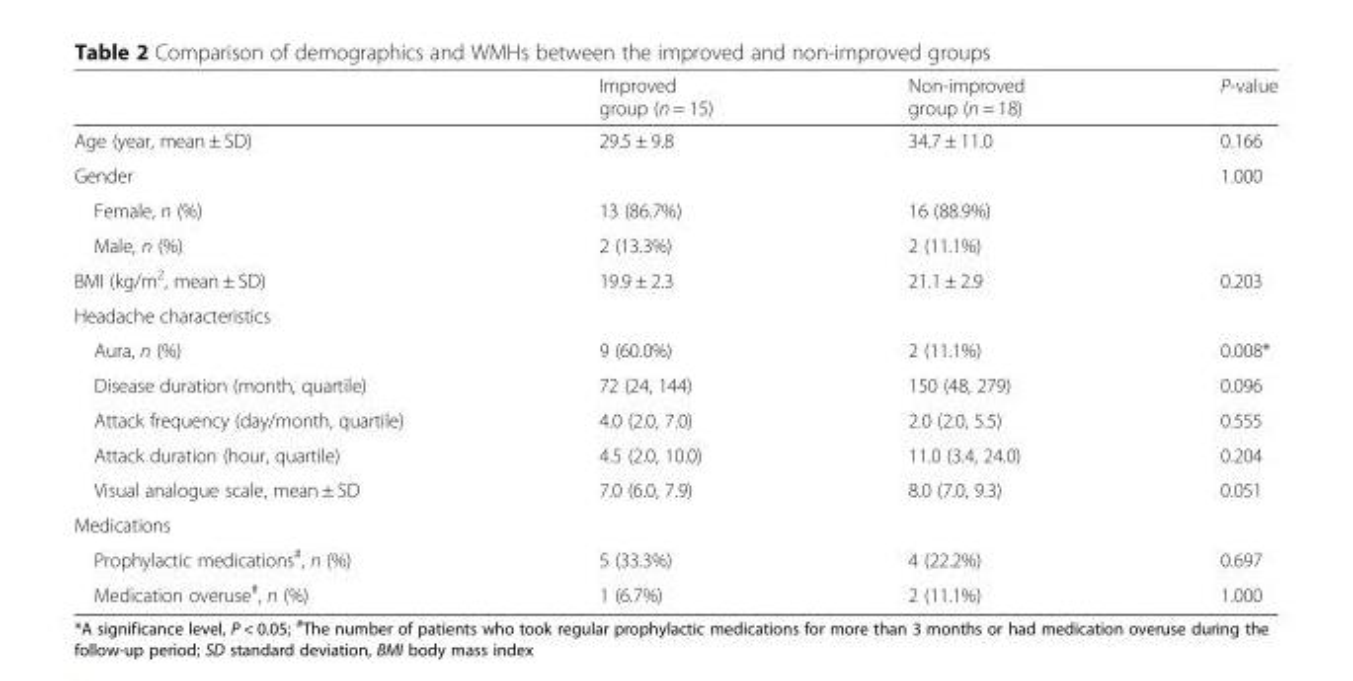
<table><thead><tr><td></td><td>Improved group (n = 15)</td><td>Non-improved group (n = 18)</td><td>P-value</td></tr></thead><tbody><tr><td>Age (year, mean ± SD)</td><td>29.5 ± 9.8</td><td>34.7 ± 11.0</td><td>0.166</td></tr><tr><td>Gender</td><td></td><td></td><td>1.000</td></tr><tr><td>Female, n (%)</td><td>13 (86.7%)</td><td>16 (88.9%)</td><td></td></tr><tr><td>Male, n (%)</td><td>2 (13.3%)</td><td>2 (11.1%)</td><td></td></tr><tr><td>BMI (kg/m<sup>2</sup>, mean ± SD)</td><td>19.9 ± 2.3</td><td>21.1 ± 2.9</td><td>0.203</td></tr><tr><td colspan="4">Headache characteristics</td></tr><tr><td>Aura, n (%)</td><td>9 (60.0%)</td><td>2 (11.1%)</td><td>0.008*</td></tr><tr><td>Disease duration (month, quartile)</td><td>72 (24, 144)</td><td>150 (48, 279)</td><td>0.096</td></tr><tr><td>Attack frequency (day/month, quartile)</td><td>4.0 (2.0, 7.0)</td><td>2.0 (2.0, 5.5)</td><td>0.555</td></tr><tr><td>Attack duration (hour, quartile)</td><td>4.5 (2.0, 10.0)</td><td>11.0 (3.4, 24.0)</td><td>0.204</td></tr><tr><td>Visual analogue scale, mean ± SD</td><td>7.0 (6.0, 7.9)</td><td>8.0 (7.0, 9.3)</td><td>0.051</td></tr><tr><td colspan="4">Medications</td></tr><tr><td>Prophylactic medications<sup>#</sup>, n (%)</td><td>5 (33.3%)</td><td>4 (22.2%)</td><td>0.697</td></tr><tr><td>Medication overuse<sup>#</sup>, n (%)</td><td>1 (6.7%)</td><td>2 (11.1%)</td><td>1.000</td></tr></tbody></table>